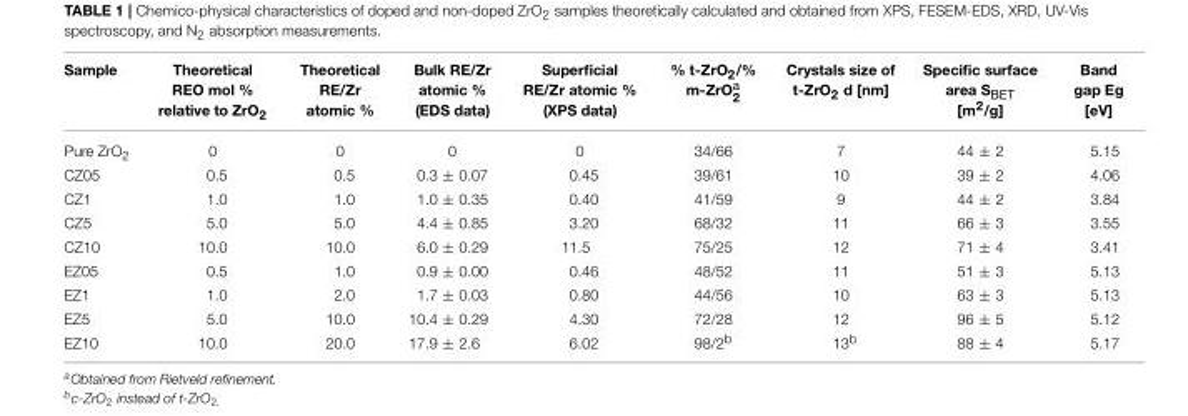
<table><thead><tr><td>Sample</td><td>Theoretical REO mol % relative to ZrO<sub>2</sub></td><td>Theoretical RE/Zr atomic %</td><td>Bulk RE/Zr atomic % (EDS data)</td><td>Superficial RE/Zr atomic % (XPS data)</td><td>% t-ZrO2/% m-ZrOa 2</td><td>Crystals size of t-ZrO<sub>2</sub> d [nm]</td><td>Specific surface area S<sub>BET</sub> [m<sup>2</sup>/g]</td><td>Band gap Eg [eV]</td></tr></thead><tbody><tr><td>Pure ZrO<sub>2</sub></td><td>0</td><td>0</td><td>0</td><td>0</td><td>34/66</td><td>7</td><td>44 ± 2</td><td>5.15</td></tr><tr><td>CZ05</td><td>0.5</td><td>0.5</td><td>0.3 ± 0.07</td><td>0.45</td><td>39/61</td><td>10</td><td>39 ± 2</td><td>4.06</td></tr><tr><td>CZ1</td><td>1.0</td><td>1.0</td><td>1.0 ± 0.35</td><td>0.40</td><td>41/59</td><td>9</td><td>44 ± 2</td><td>3.84</td></tr><tr><td>CZ5</td><td>5.0</td><td>5.0</td><td>4.4 ± 0.85</td><td>3.20</td><td>68/32</td><td>11</td><td>66 ± 3</td><td>3.55</td></tr><tr><td>CZ10</td><td>10.0</td><td>10.0</td><td>6.0 ± 0.29</td><td>11.5</td><td>75/25</td><td>12</td><td>71 ± 4</td><td>3.41</td></tr><tr><td>EZ05</td><td>0.5</td><td>1.0</td><td>0.9 ± 0.00</td><td>0.46</td><td>48/52</td><td>11</td><td>51 ± 3</td><td>5.13</td></tr><tr><td>EZ1</td><td>1.0</td><td>2.0</td><td>1.7 ± 0.03</td><td>0.80</td><td>44/56</td><td>10</td><td>63 ± 3</td><td>5.13</td></tr><tr><td>EZ5</td><td>5.0</td><td>10.0</td><td>10.4 ± 0.29</td><td>4.30</td><td>72/28</td><td>12</td><td>96 ± 5</td><td>5.12</td></tr><tr><td>EZ10</td><td>10.0</td><td>20.0</td><td>17.9 ± 2.6</td><td>6.02</td><td>98/2<sup>b</sup></td><td>13<sup>b</sup></td><td>88 ± 4</td><td>5.17</td></tr></tbody></table>